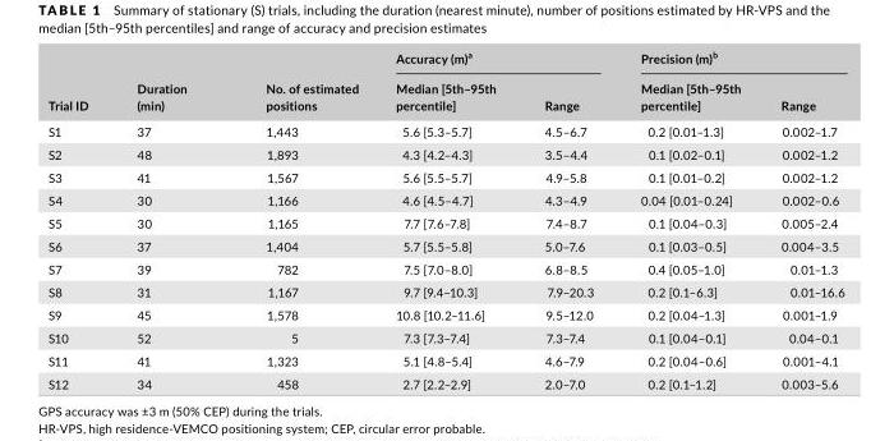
<table><thead><tr><td rowspan="2">Trial ID</td><td rowspan="2">Duration (min)</td><td rowspan="2">No. of estimated positions</td><td colspan="2">Accuracy (m)<sup>a</sup></td><td colspan="2">Precision (m)<sup>b</sup></td></tr><tr><td>Median [5th–95th percentile]</td><td>Range</td><td>Median [5th–95th percentile]</td><td>Range</td></tr></thead><tbody><tr><td>S1</td><td>37</td><td>1,443</td><td>5.6 [5.3–5.7]</td><td>4.5–6.7</td><td>0.2 [0.01–1.3]</td><td>0.002–1.7</td></tr><tr><td>S2</td><td>48</td><td>1,893</td><td>4.3 [4.2–4.3]</td><td>3.5–4.4</td><td>0.1 [0.02–0.1]</td><td>0.002–1.2</td></tr><tr><td>S3</td><td>41</td><td>1,567</td><td>5.6 [5.5–5.7]</td><td>4.9–5.8</td><td>0.1 [0.01–0.2]</td><td>0.002–1.2</td></tr><tr><td>S4</td><td>30</td><td>1,166</td><td>4.6 [4.5–4.7]</td><td>4.3–4.9</td><td>0.04 [0.01–0.24]</td><td>0.002–0.6</td></tr><tr><td>S5</td><td>30</td><td>1,165</td><td>7.7 [7.6–7.8]</td><td>7.4–8.7</td><td>0.1 [0.04–0.3]</td><td>0.005–2.4</td></tr><tr><td>S6</td><td>37</td><td>1,404</td><td>5.7 [5.5–5.8]</td><td>5.0–7.6</td><td>0.1 [0.03–0.5]</td><td>0.004–3.5</td></tr><tr><td>S7</td><td>39</td><td>782</td><td>7.5 [7.0–8.0]</td><td>6.8–8.5</td><td>0.4 [0.05–1.0]</td><td>0.01–1.3</td></tr><tr><td>S8</td><td>31</td><td>1,167</td><td>9.7 [9.4–10.3]</td><td>7.9–20.3</td><td>0.2 [0.1–6.3]</td><td>0.01–16.6</td></tr><tr><td>S9</td><td>45</td><td>1,578</td><td>10.8 [10.2–11.6]</td><td>9.5–12.0</td><td>0.2 [0.04–1.3]</td><td>0.001–1.9</td></tr><tr><td>S10</td><td>52</td><td>5</td><td>7.3 [7.3–7.4]</td><td>7.3–7.4</td><td>0.1 [0.04–0.1]</td><td>0.04–0.1</td></tr><tr><td>S11</td><td>41</td><td>1,323</td><td>5.1 [4.8–5.4]</td><td>4.6–7.9</td><td>0.2 [0.04–0.6]</td><td>0.001–4.1</td></tr><tr><td>S12</td><td>34</td><td>458</td><td>2.7 [2.2–2.9]</td><td>2.0–7.0</td><td>0.2 [0.1–1.2]</td><td>0.003–5.6</td></tr></tbody></table>